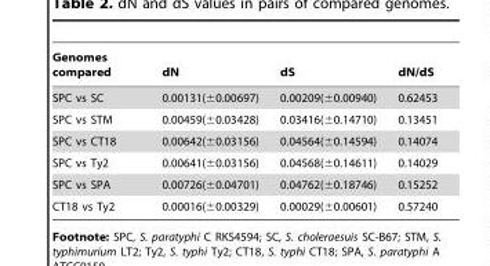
<table><thead><tr><td>Genomes compared</td><td>dN</td><td>dS</td><td>dN/dS</td></tr></thead><tbody><tr><td>SPC vs SC</td><td>0.00131(±0.00697)</td><td>0.00209(±0.00940)</td><td>0.62453</td></tr><tr><td>SPC vs STM</td><td>0.00459(±0.03428)</td><td>0.03416(±0.14710)</td><td>0.13451</td></tr><tr><td>SPC vs CT18</td><td>0.00642(±0.03156)</td><td>0.04564(±0.14594)</td><td>0.14074</td></tr><tr><td>SPC vs Ty2</td><td>0.00641(±0.03156)</td><td>0.04568(±0.14611)</td><td>0.14029</td></tr><tr><td>SPC vs SPA</td><td>0.00726(±0.04701)</td><td>0.04762(±0.18746)</td><td>0.15252</td></tr><tr><td>CT18 vs Ty2</td><td>0.00016(±0.00329)</td><td>0.00029(±0.00601)</td><td>0.57240</td></tr></tbody></table>